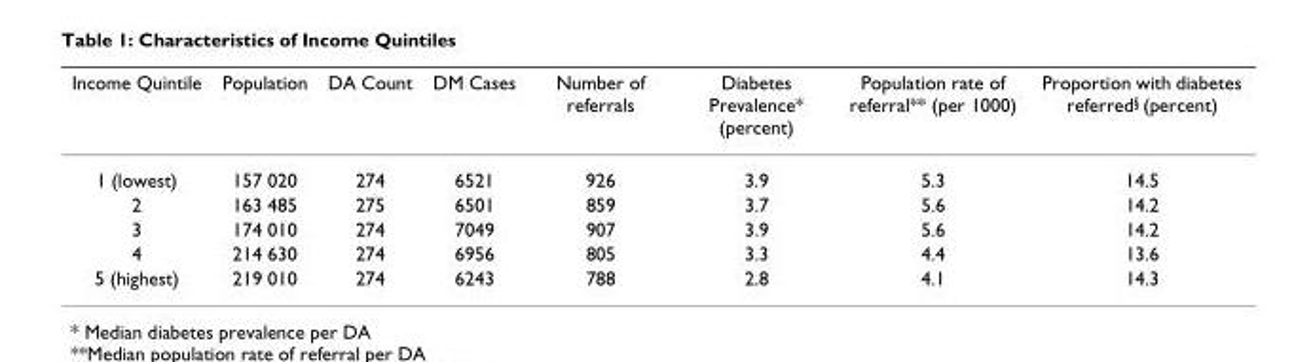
<table><thead><tr><td>Income Quintile</td><td>Population</td><td>DA Count</td><td>DM Cases</td><td>Number of referrals</td><td>Diabetes Prevalence* (percent)</td><td>Population rate of referral** (per 1000)</td><td>Proportion with diabetes referred§ (percent)</td></tr></thead><tbody><tr><td>1 (lowest)</td><td>157 020</td><td>274</td><td>6521</td><td>926</td><td>3.9</td><td>5.3</td><td>14.5</td></tr><tr><td>2</td><td>163 485</td><td>275</td><td>6501</td><td>859</td><td>3.7</td><td>5.6</td><td>14.2</td></tr><tr><td>3</td><td>174 010</td><td>274</td><td>7049</td><td>907</td><td>3.9</td><td>5.6</td><td>14.2</td></tr><tr><td>4</td><td>214 630</td><td>274</td><td>6956</td><td>805</td><td>3.3</td><td>4.4</td><td>13.6</td></tr><tr><td>5 (highest)</td><td>219 010</td><td>274</td><td>6243</td><td>788</td><td>2.8</td><td>4.1</td><td>14.3</td></tr></tbody></table>